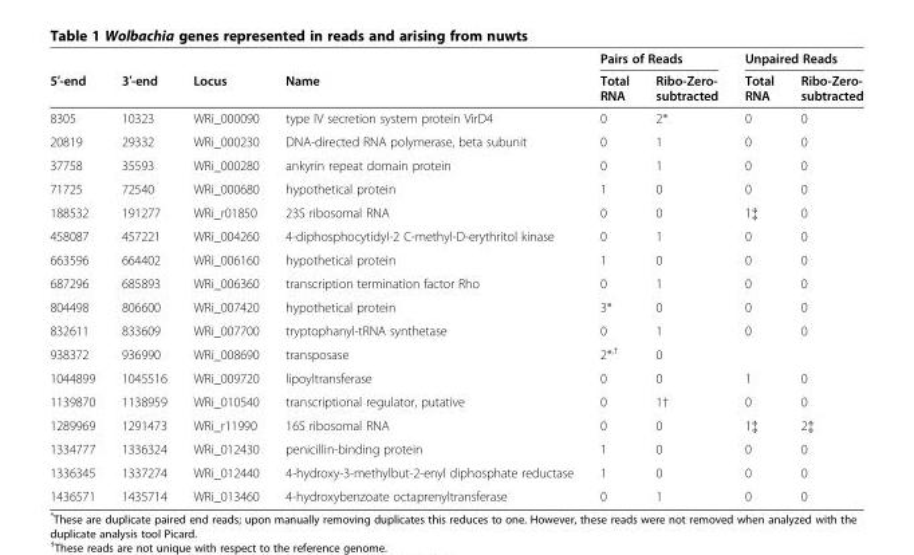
<table><thead><tr><td rowspan="2">5′-end</td><td rowspan="2">3′-end</td><td rowspan="2">Locus</td><td rowspan="2">Name</td><td colspan="2">Pairs of Reads</td><td colspan="2">Unpaired Reads</td></tr><tr><td>Total RNA</td><td>Ribo-Zero- subtracted</td><td>Total RNA</td><td>Ribo-Zero- subtracted</td></tr></thead><tbody><tr><td>8305</td><td>10323</td><td>WRi_000090</td><td>type IV secretion system protein VirD4</td><td>0</td><td>2*</td><td>0</td><td>0</td></tr><tr><td>20819</td><td>29332</td><td>WRi_000230</td><td>DNA-directed RNA polymerase, beta subunit</td><td>0</td><td>1</td><td>0</td><td>0</td></tr><tr><td>37758</td><td>35593</td><td>WRi_000280</td><td>ankyrin repeat domain protein</td><td>0</td><td>1</td><td>0</td><td>0</td></tr><tr><td>71725</td><td>72540</td><td>WRi_000680</td><td>hypothetical protein</td><td>1</td><td>0</td><td>0</td><td>0</td></tr><tr><td>188532</td><td>191277</td><td>WRi_r01850</td><td>23S ribosomal RNA</td><td>0</td><td>0</td><td>1‡</td><td>0</td></tr><tr><td>458087</td><td>457221</td><td>WRi_004260</td><td>4-diphosphocytidyl-2 C-methyl-D-erythritol kinase</td><td>0</td><td>1</td><td>0</td><td>0</td></tr><tr><td>663596</td><td>664402</td><td>WRi_006160</td><td>hypothetical protein</td><td>1</td><td>0</td><td>0</td><td>0</td></tr><tr><td>687296</td><td>685893</td><td>WRi_006360</td><td>transcription termination factor Rho</td><td>0</td><td>1</td><td>0</td><td>0</td></tr><tr><td>804498</td><td>806600</td><td>WRi_007420</td><td>hypothetical protein</td><td>3*</td><td>0</td><td>0</td><td>0</td></tr><tr><td>832611</td><td>833609</td><td>WRi_007700</td><td>tryptophanyl-tRNA synthetase</td><td>0</td><td>1</td><td>0</td><td>0</td></tr><tr><td>938372</td><td>936990</td><td>WRi_008690</td><td>transposase</td><td>2*<sup>,†</sup></td><td>0</td><td></td><td></td></tr><tr><td>1044899</td><td>1045516</td><td>WRi_009720</td><td>lipoyltransferase</td><td>0</td><td>0</td><td>1</td><td>0</td></tr><tr><td>1139870</td><td>1138959</td><td>WRi_010540</td><td>transcriptional regulator, putative</td><td>0</td><td>1†</td><td>0</td><td>0</td></tr><tr><td>1289969</td><td>1291473</td><td>WRi_r11990</td><td>16S ribosomal RNA</td><td>0</td><td>0</td><td>1‡</td><td>2‡</td></tr><tr><td>1334777</td><td>1336324</td><td>WRi_012430</td><td>penicillin-binding protein</td><td>1</td><td>0</td><td>0</td><td>0</td></tr><tr><td>1336345</td><td>1337274</td><td>WRi_012440</td><td>4-hydroxy-3-methylbut-2-enyl diphosphate reductase</td><td>1</td><td>0</td><td>0</td><td>0</td></tr><tr><td>1436571</td><td>1435714</td><td>WRi_013460</td><td>4-hydroxybenzoate octaprenyltransferase</td><td>0</td><td>1</td><td>0</td><td>0</td></tr></tbody></table>